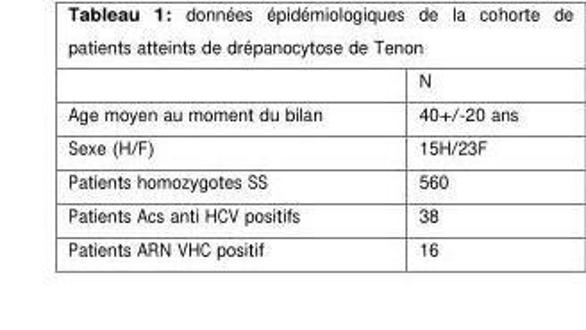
<table><thead><tr><td></td><td>N</td></tr></thead><tbody><tr><td>Age moyen au moment du bilan</td><td>40+/-20 ans</td></tr><tr><td>Sexe (H/F)</td><td>15H/23F</td></tr><tr><td>Patients homozygotes SS</td><td>560</td></tr><tr><td>Patients Acs anti HCV positifs</td><td>38</td></tr><tr><td>Patients ARN VHC positif</td><td>16</td></tr></tbody></table>